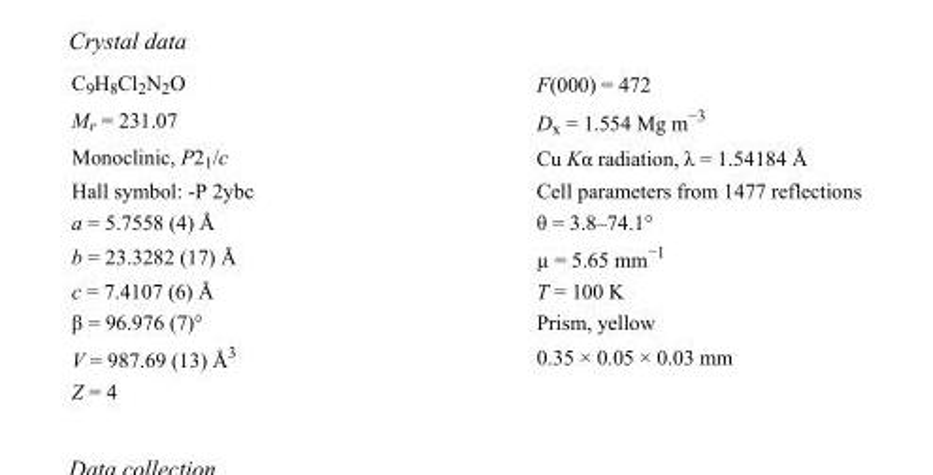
<table><tbody><tr><td>C<sub>9</sub>H<sub>8</sub>Cl<sub>2</sub>N<sub>2</sub>O</td><td>F(000) = 472</td></tr><tr><td>M<sub>r</sub> = 231.07</td><td>D<sub>x</sub> = 1.554 Mg m<sup>−3</sup></td></tr><tr><td>Monoclinic, P2<sub>1</sub>/c</td><td>Cu Kα radiation, λ = 1.54184 Å</td></tr><tr><td>Hall symbol: -P 2ybc</td><td>Cell parameters from 1477 reflections</td></tr><tr><td>a = 5.7558 (4) Å</td><td>θ = 3.8–74.1°</td></tr><tr><td>b = 23.3282 (17) Å</td><td>µ = 5.65 mm<sup>−1</sup></td></tr><tr><td>c = 7.4107 (6) Å</td><td>T = 100 K</td></tr><tr><td>β = 96.976 (7)°</td><td>Prism, yellow</td></tr><tr><td>V = 987.69 (13) Å<sup>3</sup></td><td>0.35 × 0.05 × 0.03 mm</td></tr><tr><td>Z = 4</td><td></td></tr></tbody></table>